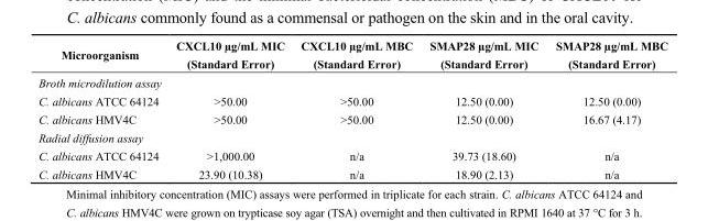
<table><thead><tr><td>Microorganism</td><td>CXCL10 µg/mL MIC (Standard Error)</td><td>CXCL10 µg/mL MBC (Standard Error)</td><td>SMAP28 µg/mL MIC (Standard Error)</td><td>SMAP28 µg/mL MBC (Standard Error)</td></tr></thead><tbody><tr><td colspan="5">Broth microdilution assay</td></tr><tr><td>C. albicans ATCC 64124</td><td>&gt;50.00</td><td>&gt;50.00</td><td>12.50 (0.00)</td><td>12.50 (0.00)</td></tr><tr><td>C. albicans HMV4C</td><td>&gt;50.00</td><td>&gt;50.00</td><td>12.50 (0.00)</td><td>16.67 (4.17)</td></tr><tr><td colspan="5">Radial diffusion assay</td></tr><tr><td>C. albicans ATCC 64124</td><td>&gt;1,000.00</td><td>n/a</td><td>39.73 (18.60)</td><td>n/a</td></tr><tr><td>C. albicans HMV4C</td><td>23.90 (10.38)</td><td>n/a</td><td>18.90 (2.13)</td><td>n/a</td></tr></tbody></table>